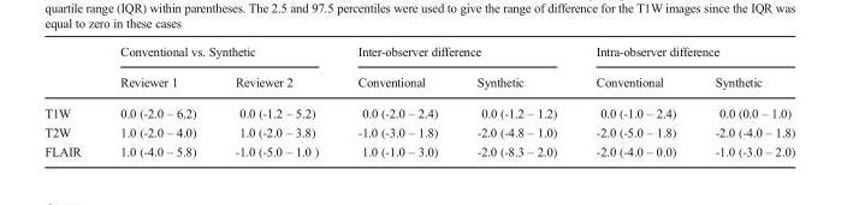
<table><thead><tr><td rowspan="2"></td><td colspan="2">Conventional vs. Synthetic</td><td colspan="2">Inter-observer difference</td><td colspan="2">Intra-observer difference</td></tr><tr><td>Reviewer 1</td><td>Reviewer 2</td><td>Conventional</td><td>Synthetic</td><td>Conventional</td><td>Synthetic</td></tr></thead><tbody><tr><td>T1W</td><td>0.0 (-2.0 – 6.2)</td><td>0.0 (-1.2 – 5.2)</td><td>0.0 (-2.0 – 2.4)</td><td>0.0 (-1.2 – 1.2)</td><td>0.0 (-1.0 – 2.4)</td><td>0.0 (0.0 – 1.0)</td></tr><tr><td>T2W</td><td>1.0 (-2.0 – 4.0)</td><td>1.0 (-2.0 – 3.8)</td><td>-1.0 (-3.0 – 1.8)</td><td>-2.0 (-4.8 – 1.0)</td><td>-2.0 (-5.0 – 1.8)</td><td>-2.0 (-4.0 – 1.8)</td></tr><tr><td>FLAIR</td><td>1.0 (-4.0 – 5.8)</td><td>-1.0 (-5.0 – 1.0 )</td><td>1.0 (-1.0 – 3.0)</td><td>-2.0 (-8.3 – 2.0)</td><td>-2.0 (-4.0 – 0.0)</td><td>-1.0 (-3.0 – 2.0)</td></tr></tbody></table>